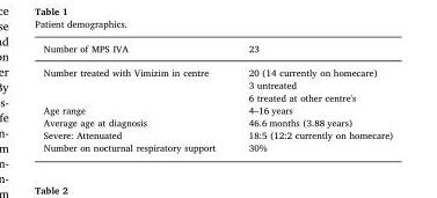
<table><thead><tr><td>Number of MPS IVA</td><td>23</td></tr></thead><tbody><tr><td>Number treated with Vimizim in centre</td><td>20 (14 currently on homecare) 3 untreated 6 treated at other centre&#x27;s</td></tr><tr><td>Age range</td><td>4–16 years</td></tr><tr><td>Average age at diagnosis</td><td>46.6 months (3.88 years)</td></tr><tr><td>Severe: Attenuated</td><td>18:5 (12:2 currently on homecare)</td></tr><tr><td>Number on nocturnal respiratory support</td><td>30%</td></tr></tbody></table>